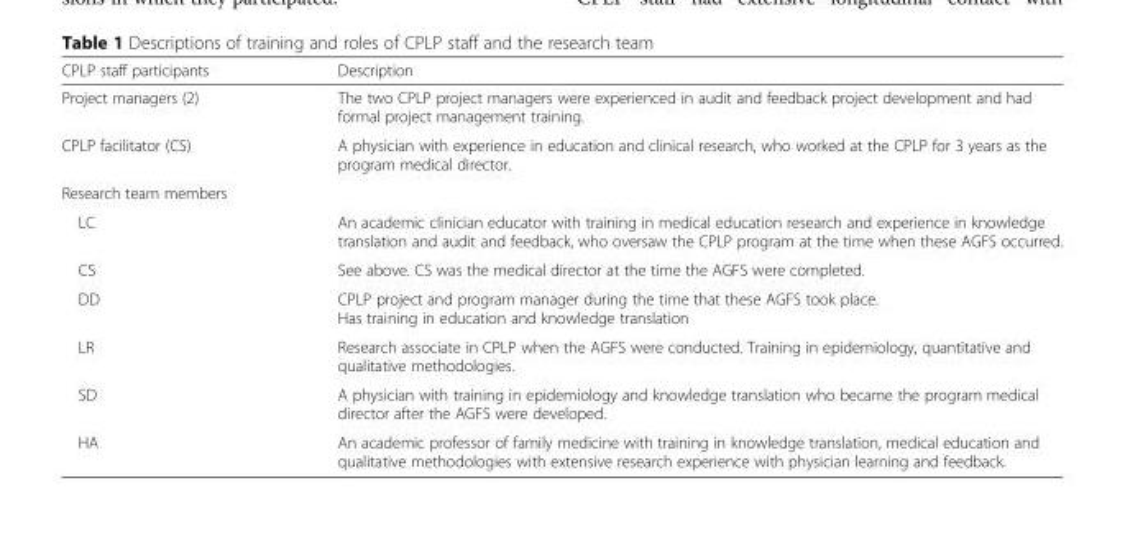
<table><thead><tr><td>CPLP staff participants</td><td>Description</td></tr></thead><tbody><tr><td>Project managers (2)</td><td>The two CPLP project managers were experienced in audit and feedback project development and had formal project management training.</td></tr><tr><td>CPLP facilitator (CS)</td><td>A physician with experience in education and clinical research, who worked at the CPLP for 3 years as the program medical director.</td></tr><tr><td colspan="2">Research team members</td></tr><tr><td>LC</td><td>An academic clinician educator with training in medical education research and experience in knowledge translation and audit and feedback, who oversaw the CPLP program at the time when these AGFS occurred.</td></tr><tr><td>CS</td><td>See above. CS was the medical director at the time the AGFS were completed.</td></tr><tr><td>DD</td><td>CPLP project and program manager during the time that these AGFS took place. Has training in education and knowledge translation</td></tr><tr><td>LR</td><td>Research associate in CPLP when the AGFS were conducted. Training in epidemiology, quantitative and qualitative methodologies.</td></tr><tr><td>SD</td><td>A physician with training in epidemiology and knowledge translation who became the program medical director after the AGFS were developed.</td></tr><tr><td>HA</td><td>An academic professor of family medicine with training in knowledge translation, medical education and qualitative methodologies with extensive research experience with physician learning and feedback.</td></tr></tbody></table>